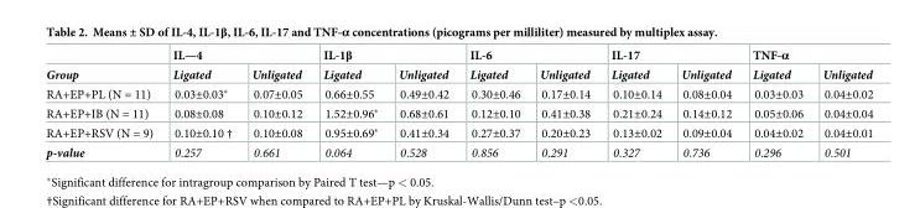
<table><thead><tr><td rowspan="2">Group</td><td colspan="2">IL—4</td><td colspan="2">IL-1β</td><td colspan="2">IL-6</td><td colspan="2">IL-17</td><td colspan="2">TNF-α</td></tr><tr><td>Ligated</td><td>Unligated</td><td>Ligated</td><td>Unligated</td><td>Ligated</td><td>Unligated</td><td>Ligated</td><td>Unligated</td><td>Ligated</td><td>Unligated</td></tr></thead><tbody><tr><td>RA+EP+PL (N = 11)</td><td>0.03±0.03*</td><td>0.07±0.05</td><td>0.66±0.55</td><td>0.49±0.42</td><td>0.30±0.46</td><td>0.17±0.14</td><td>0.10±0.14</td><td>0.08±0.04</td><td>0.03±0.03</td><td>0.04±0.02</td></tr><tr><td>RA+EP+IB (N = 11)</td><td>0.08±0.08</td><td>0.10±0.12</td><td>1.52±0.96*</td><td>0.68±0.61</td><td>0.12±0.10</td><td>0.41±0.38</td><td>0.21±0.24</td><td>0.14±0.12</td><td>0.05±0.06</td><td>0.04±0.04</td></tr><tr><td>RA+EP+RSV (N = 9)</td><td>0.10±0.10 †</td><td>0.10±0.08</td><td>0.95±0.69*</td><td>0.41±0.34</td><td>0.27±0.37</td><td>0.20±0.23</td><td>0.13±0.02</td><td>0.09±0.04</td><td>0.04±0.02</td><td>0.04±0.01</td></tr><tr><td>p-value</td><td>0.257</td><td>0.661</td><td>0.064</td><td>0.528</td><td>0.856</td><td>0.291</td><td>0.327</td><td>0.736</td><td>0.296</td><td>0.501</td></tr></tbody></table>